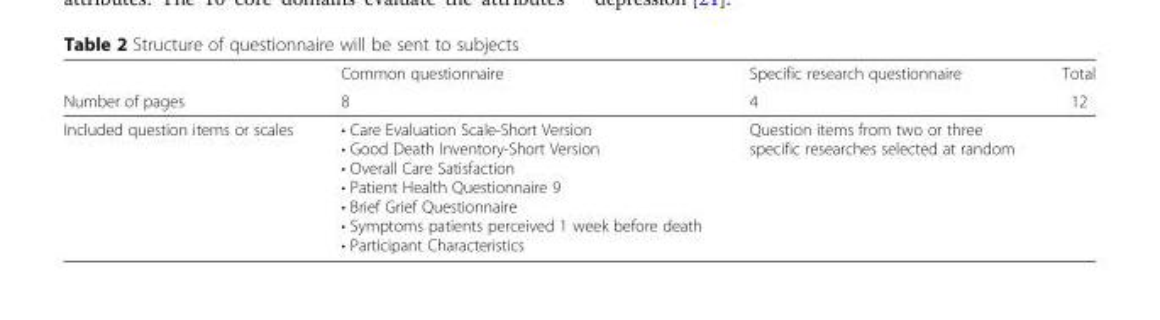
<table><thead><tr><td rowspan="2">Number of pages</td><td rowspan="2">Common questionnaire 8</td><td rowspan="2">Specific research questionnaire 4</td><td rowspan="2">Total 12</td></tr><tr></tr></thead><tbody><tr><td>Included question items or scales</td><td>• Care Evaluation Scale-Short Version • Good Death Inventory-Short Version • Overall Care Satisfaction • Patient Health Questionnaire 9 • Brief Grief Questionnaire • Symptoms patients perceived 1 week before death • Participant Characteristics</td><td>Question items from two or three specific researches selected at random</td><td></td></tr></tbody></table>